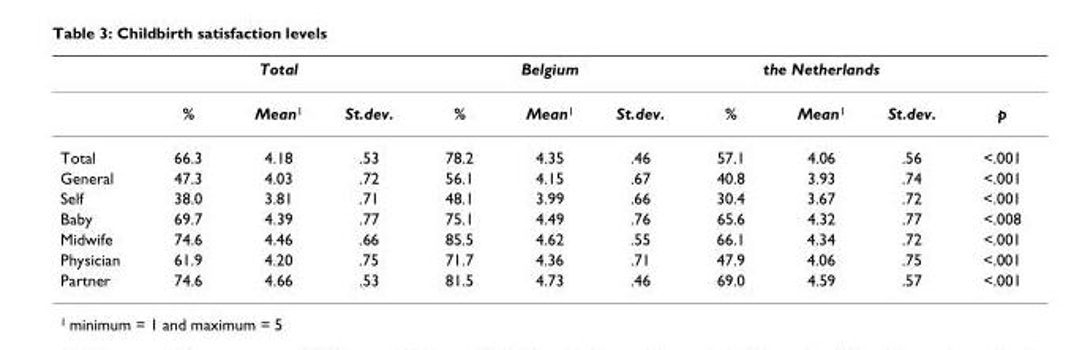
<table><thead><tr><td rowspan="2"></td><td colspan="3">Total</td><td colspan="3">Belgium</td><td colspan="3">the Netherlands</td><td rowspan="2">p</td></tr><tr><td>%</td><td>Mean<sup>1</sup></td><td>St.dev.</td><td>%</td><td>Mean<sup>1</sup></td><td>St.dev.</td><td>%</td><td>Mean<sup>1</sup></td><td>St.dev.</td></tr></thead><tbody><tr><td>Total</td><td>66.3</td><td>4.18</td><td>.53</td><td>78.2</td><td>4.35</td><td>.46</td><td>57.1</td><td>4.06</td><td>.56</td><td>&lt;.001</td></tr><tr><td>General</td><td>47.3</td><td>4.03</td><td>.72</td><td>56.1</td><td>4.15</td><td>.67</td><td>40.8</td><td>3.93</td><td>.74</td><td>&lt;.001</td></tr><tr><td>Self</td><td>38.0</td><td>3.81</td><td>.71</td><td>48.1</td><td>3.99</td><td>.66</td><td>30.4</td><td>3.67</td><td>.72</td><td>&lt;.001</td></tr><tr><td>Baby</td><td>69.7</td><td>4.39</td><td>.77</td><td>75.1</td><td>4.49</td><td>.76</td><td>65.6</td><td>4.32</td><td>.77</td><td>&lt;.008</td></tr><tr><td>Midwife</td><td>74.6</td><td>4.46</td><td>.66</td><td>85.5</td><td>4.62</td><td>.55</td><td>66.1</td><td>4.34</td><td>.72</td><td>&lt;.001</td></tr><tr><td>Physician</td><td>61.9</td><td>4.20</td><td>.75</td><td>71.7</td><td>4.36</td><td>.71</td><td>47.9</td><td>4.06</td><td>.75</td><td>&lt;.001</td></tr><tr><td>Partner</td><td>74.6</td><td>4.66</td><td>.53</td><td>81.5</td><td>4.73</td><td>.46</td><td>69.0</td><td>4.59</td><td>.57</td><td>&lt;.001</td></tr></tbody></table>